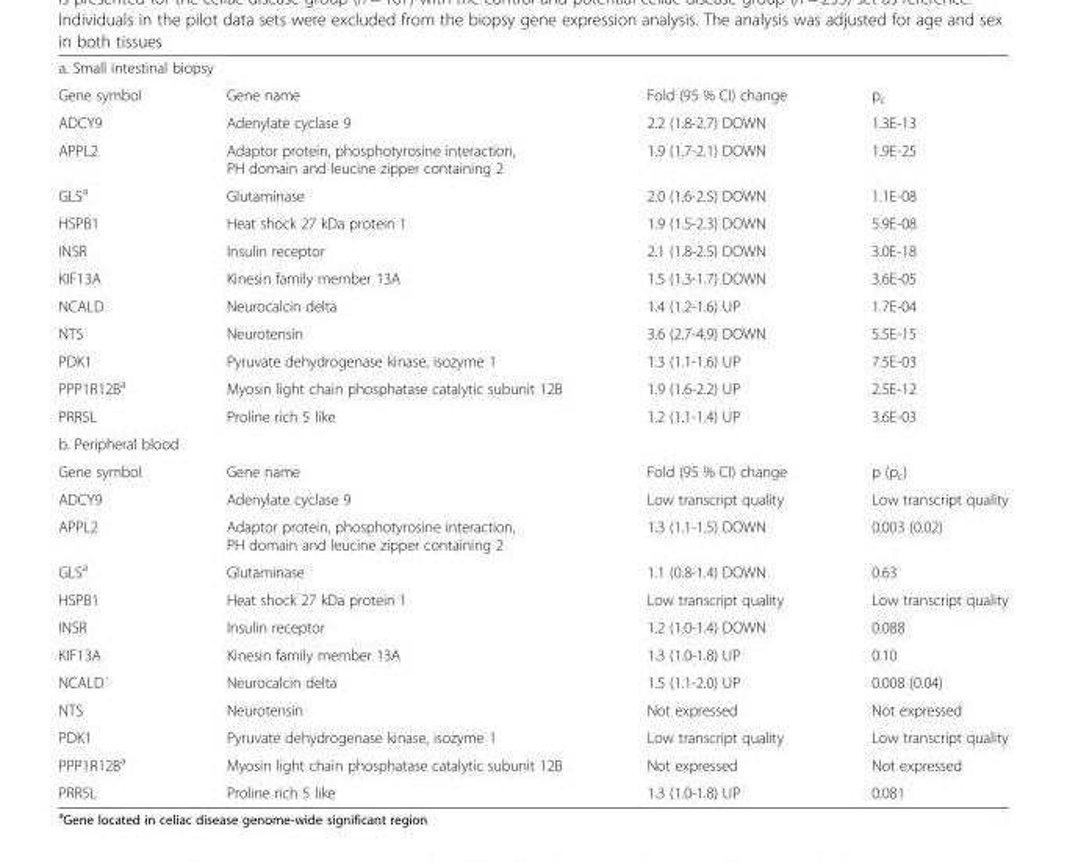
<table><tbody><tr><td colspan="4">a. Small intestinal biopsy</td></tr><tr><td>Gene symbol</td><td>Gene name</td><td>Fold (95 % CI) change</td><td>p<sub>c</sub></td></tr><tr><td>ADCY9</td><td>Adenylate cyclase 9</td><td>2.2 (1.8-2.7) DOWN</td><td>1.3E-13</td></tr><tr><td>APPL2</td><td>Adaptor protein, phosphotyrosine interaction, PH domain and leucine zipper containing 2</td><td>1.9 (1.7-2.1) DOWN</td><td>1.9E-25</td></tr><tr><td>GLS<sup>a</sup></td><td>Glutaminase</td><td>2.0 (1.6-2.5) DOWN</td><td>1.1E-08</td></tr><tr><td>HSPB1</td><td>Heat shock 27 kDa protein 1</td><td>1.9 (1.5-2.3) DOWN</td><td>5.9E-08</td></tr><tr><td>INSR</td><td>Insulin receptor</td><td>2.1 (1.8-2.5) DOWN</td><td>3.0E-18</td></tr><tr><td>KIF13A</td><td>Kinesin family member 13A</td><td>1.5 (1.3-1.7) DOWN</td><td>3.6E-05</td></tr><tr><td>NCALD</td><td>Neurocalcin delta</td><td>1.4 (1.2-1.6) UP</td><td>1.7E-04</td></tr><tr><td>NTS</td><td>Neurotensin</td><td>3.6 (2.7-4.9) DOWN</td><td>5.5E-15</td></tr><tr><td>PDK1</td><td>Pyruvate dehydrogenase kinase, isozyme 1</td><td>1.3 (1.1-1.6) UP</td><td>7.5E-03</td></tr><tr><td>PPP1R12B<sup>a</sup></td><td>Myosin light chain phosphatase catalytic subunit 12B</td><td>1.9 (1.6-2.2) UP</td><td>2.5E-12</td></tr><tr><td>PRR5L</td><td>Proline rich 5 like</td><td>1.2 (1.1-1.4) UP</td><td>3.6E-03</td></tr><tr><td colspan="4">b. Peripheral blood</td></tr><tr><td>Gene symbol</td><td>Gene name</td><td>Fold (95 % CI) change</td><td>p (p<sub>c</sub>)</td></tr><tr><td>ADCY9</td><td>Adenylate cyclase 9</td><td>Low transcript quality</td><td>Low transcript quality</td></tr><tr><td>APPL2</td><td>Adaptor protein, phosphotyrosine interaction, PH domain and leucine zipper containing 2</td><td>1.3 (1.1-1.5) DOWN</td><td>0.003 (0.02)</td></tr><tr><td>GLS<sup>a</sup></td><td>Glutaminase</td><td>1.1 (0.8-1.4) DOWN</td><td>0.63</td></tr><tr><td>HSPB1</td><td>Heat shock 27 kDa protein 1</td><td>Low transcript quality</td><td>Low transcript quality</td></tr><tr><td>INSR</td><td>Insulin receptor</td><td>1.2 (1.0-1.4) DOWN</td><td>0.088</td></tr><tr><td>KIF13A</td><td>Kinesin family member 13A</td><td>1.3 (1.0-1.8) UP</td><td>0.10</td></tr><tr><td>NCALD</td><td>Neurocalcin delta</td><td>1.5 (1.1-2.0) UP</td><td>0.008 (0.04)</td></tr><tr><td>NTS</td><td>Neurotensin</td><td>Not expressed</td><td>Not expressed</td></tr><tr><td>PDK1</td><td>Pyruvate dehydrogenase kinase, isozyme 1</td><td>Low transcript quality</td><td>Low transcript quality</td></tr><tr><td>PPP1R12B<sup>a</sup></td><td>Myosin light chain phosphatase catalytic subunit 12B</td><td>Not expressed</td><td>Not expressed</td></tr><tr><td>PRR5L</td><td>Proline rich 5 like</td><td>1.3 (1.0-1.8) UP</td><td>0.081</td></tr></tbody></table>